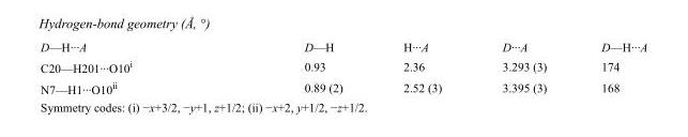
<table><tbody><tr><td>D—H···A</td><td>D—H</td><td>H···A</td><td>D···A</td><td>D—H···A</td></tr><tr><td>C20—H201···O10<sup>i</sup></td><td>0.93</td><td>2.36</td><td>3.293 (3)</td><td>174</td></tr><tr><td>N7—H1···O10<sup>ii</sup></td><td>0.89 (2)</td><td>2.52 (3)</td><td>3.395 (3)</td><td>168</td></tr></tbody></table>